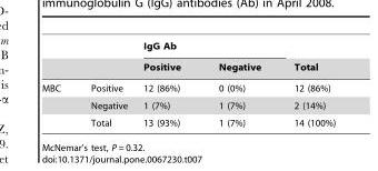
<table><thead><tr><td rowspan="2"></td><td rowspan="2"></td><td colspan="2">IgG Ab</td><td rowspan="2">Total</td></tr><tr><td>Positive</td><td>Negative</td></tr></thead><tbody><tr><td rowspan="3">MBC</td><td>Positive</td><td>12 (86%)</td><td>0 (0%)</td><td>12 (86%)</td></tr><tr><td>Negative</td><td>1 (7%)</td><td>1 (7%)</td><td>2 (14%)</td></tr><tr><td>Total</td><td>13 (93%)</td><td>1 (7%)</td><td>14 (100%)</td></tr></tbody></table>